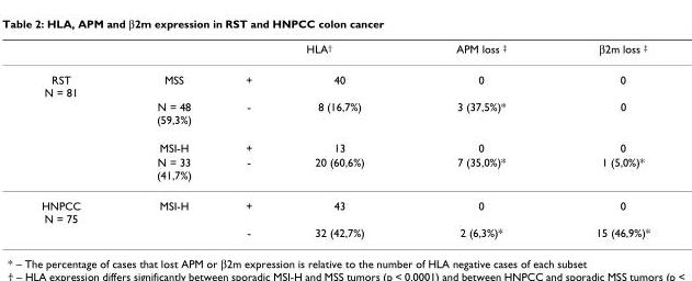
<table><thead><tr><td rowspan="2">RST N = 81</td><td rowspan="2">MSS</td><td colspan="2">HLA†</td><td rowspan="2">APM loss ‡ 0</td><td rowspan="2">β2m loss ‡ 0</td></tr><tr><td>+</td><td>40</td></tr></thead><tbody><tr><td></td><td>N = 48 (59,3%)</td><td>-</td><td>8 (16,7%)</td><td>3 (37,5%)*</td><td>0</td></tr><tr><td></td><td>MSI-H</td><td>+</td><td>13</td><td>0</td><td>0</td></tr><tr><td></td><td>N = 33 (41,7%)</td><td>-</td><td>20 (60,6%)</td><td>7 (35,0%)*</td><td>1 (5,0%)*</td></tr><tr><td rowspan="2">HNPCC N = 75</td><td>MSI-H</td><td>+</td><td>43</td><td>0</td><td>0</td></tr><tr><td></td><td>-</td><td>32 (42,7%)</td><td>2 (6,3%)*</td><td>15 (46,9%)*</td></tr></tbody></table>